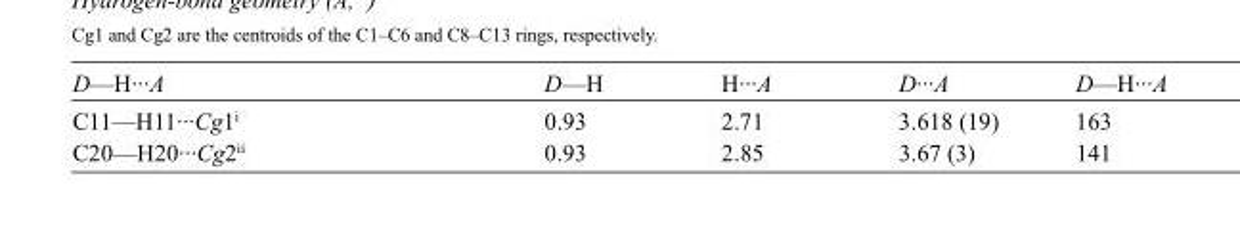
<table><tbody><tr><td>D—H···A</td><td>D—H</td><td>H···A</td><td>D···A</td><td>D—H···A</td></tr><tr><td>C11—H11···Cg1<sup>i</sup></td><td>0.93</td><td>2.71</td><td>3.618 (19)</td><td>163</td></tr><tr><td>C20—H20···Cg2<sup>ii</sup></td><td>0.93</td><td>2.85</td><td>3.67 (3)</td><td>141</td></tr></tbody></table>